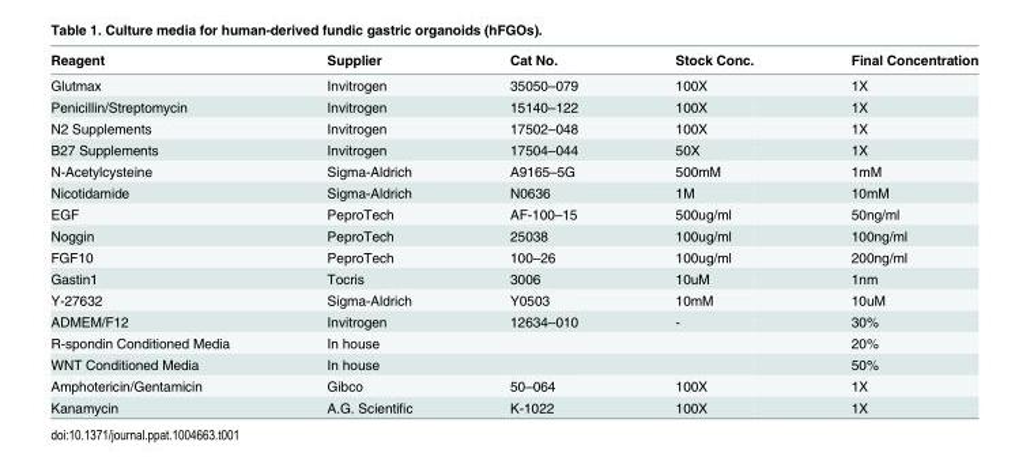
<table><thead><tr><td>Reagent</td><td>Supplier</td><td>Cat No.</td><td>Stock Conc.</td><td>Final Concentration</td></tr></thead><tbody><tr><td>Glutmax</td><td>Invitrogen</td><td>35050–079</td><td>100X</td><td>1X</td></tr><tr><td>Penicillin/Streptomycin</td><td>Invitrogen</td><td>15140–122</td><td>100X</td><td>1X</td></tr><tr><td>N2 Supplements</td><td>Invitrogen</td><td>17502–048</td><td>100X</td><td>1X</td></tr><tr><td>B27 Supplements</td><td>Invitrogen</td><td>17504–044</td><td>50X</td><td>1X</td></tr><tr><td>N-Acetylcysteine</td><td>Sigma-Aldrich</td><td>A9165–5G</td><td>500mM</td><td>1mM</td></tr><tr><td>Nicotidamide</td><td>Sigma-Aldrich</td><td>N0636</td><td>1M</td><td>10mM</td></tr><tr><td>EGF</td><td>PeproTech</td><td>AF-100–15</td><td>500ug/ml</td><td>50ng/ml</td></tr><tr><td>Noggin</td><td>PeproTech</td><td>25038</td><td>100ug/ml</td><td>100ng/ml</td></tr><tr><td>FGF10</td><td>PeproTech</td><td>100–26</td><td>100ug/ml</td><td>200ng/ml</td></tr><tr><td>Gastin1</td><td>Tocris</td><td>3006</td><td>10uM</td><td>1nm</td></tr><tr><td>Y-27632</td><td>Sigma-Aldrich</td><td>Y0503</td><td>10mM</td><td>10uM</td></tr><tr><td>ADMEM/F12</td><td>Invitrogen</td><td>12634–010</td><td>-</td><td>30%</td></tr><tr><td>R-spondin Conditioned Media</td><td>In house</td><td></td><td></td><td>20%</td></tr><tr><td>WNT Conditioned Media</td><td>In house</td><td></td><td></td><td>50%</td></tr><tr><td>Amphotericin/Gentamicin</td><td>Gibco</td><td>50–064</td><td>100X</td><td>1X</td></tr><tr><td>Kanamycin</td><td>A.G. Scientific</td><td>K-1022</td><td>100X</td><td>1X</td></tr></tbody></table>